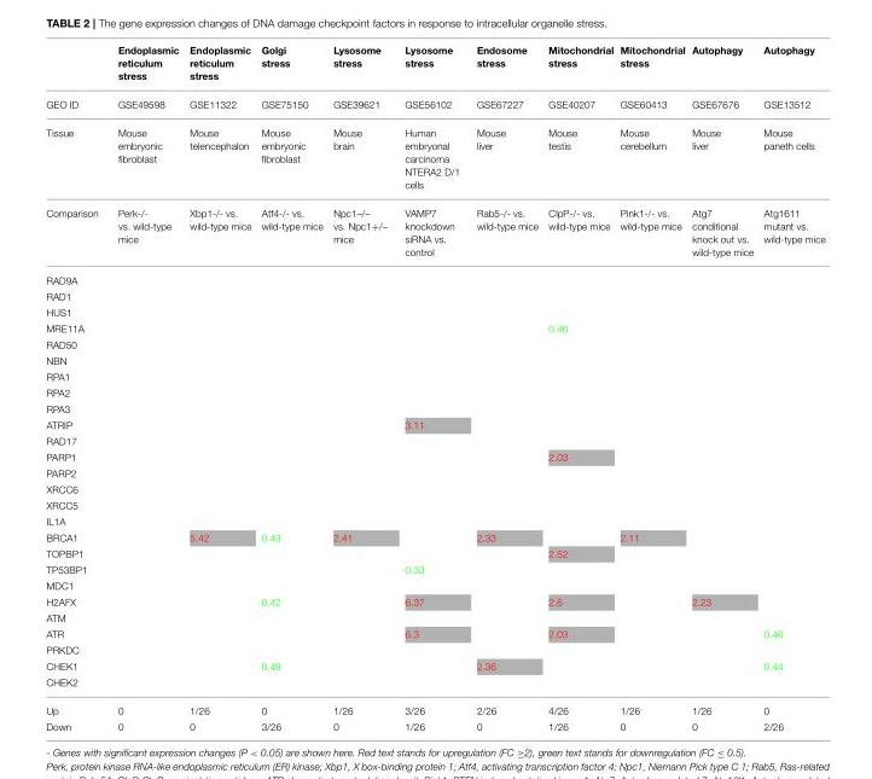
<table><thead><tr><td></td><td>Endoplasmic reticulum stress</td><td>Endoplasmic reticulum stress</td><td>Golgi stress</td><td>Lysosome stress</td><td>Lysosome stress</td><td>Endosome stress</td><td>Mitochondrial stress</td><td>Mitochondrial stress</td><td>Autophagy</td><td>Autophagy</td></tr></thead><tbody><tr><td>GEO ID</td><td>GSE49598</td><td>GSE11322</td><td>GSE75150</td><td>GSE39621</td><td>GSE56102</td><td>GSE67227</td><td>GSE40207</td><td>GSE60413</td><td>GSE67676</td><td>GSE13512</td></tr><tr><td>Tissue</td><td>Mouse embryonic fibroblast</td><td>Mouse telencephalon</td><td>Mouse embryonic fibroblast</td><td>Mouse brain</td><td>Human embryonal carcinoma NTERA2 D/1 cells</td><td>Mouse liver</td><td>Mouse testis</td><td>Mouse cerebellum</td><td>Mouse liver</td><td>Mouse paneth cells</td></tr><tr><td>Comparison</td><td>Perk-/- vs. wild-type mice</td><td>Xbp1-/- vs. wild-type mice</td><td>Atf4-/- vs. wild-type mice</td><td>Npc1–/– vs. Npc1+/– mice</td><td>VAMP7 knockdown siRNA vs. control</td><td>Rab5-/- vs. wild-type mice</td><td>ClpP-/- vs. wild-type mice</td><td>Pink1-/- vs. wild-type mice</td><td>Atg7 conditional knock out vs. wild-type mice</td><td>Atg1611 mutant vs. wild-type mice</td></tr><tr><td colspan="11">RAD9A</td></tr><tr><td colspan="11">RAD1</td></tr><tr><td colspan="11">HUS1</td></tr><tr><td>MRE11A</td><td></td><td></td><td></td><td></td><td></td><td></td><td>0.46</td><td></td><td></td><td></td></tr><tr><td colspan="11">RAD50</td></tr><tr><td colspan="11">NBN</td></tr><tr><td colspan="11">RPA1</td></tr><tr><td colspan="11">RPA2</td></tr><tr><td colspan="11">RPA3</td></tr><tr><td>ATRIP</td><td></td><td></td><td></td><td></td><td>3.11</td><td></td><td></td><td></td><td></td><td></td></tr><tr><td colspan="11">RAD17</td></tr><tr><td>PARP1</td><td></td><td></td><td></td><td></td><td></td><td></td><td>2.03</td><td></td><td></td><td></td></tr><tr><td colspan="11">PARP2</td></tr><tr><td colspan="11">XRCC6</td></tr><tr><td colspan="11">XRCC5</td></tr><tr><td colspan="11">IL1A</td></tr><tr><td>BRCA1</td><td></td><td>5.42</td><td>0.43</td><td>2.41</td><td></td><td>2.33</td><td></td><td>2.11</td><td></td><td></td></tr><tr><td>TOPBP1</td><td></td><td></td><td></td><td></td><td></td><td></td><td>2.52</td><td></td><td></td><td></td></tr><tr><td>TP53BP1</td><td></td><td></td><td></td><td></td><td>0.33</td><td></td><td></td><td></td><td></td><td></td></tr><tr><td colspan="11">MDC1</td></tr><tr><td>H2AFX</td><td></td><td></td><td>0.42</td><td></td><td>6.37</td><td></td><td>2.6</td><td></td><td>2.23</td><td></td></tr><tr><td colspan="11">ATM</td></tr><tr><td>ATR</td><td></td><td></td><td></td><td></td><td>6.3</td><td></td><td>2.03</td><td></td><td></td><td>0.46</td></tr><tr><td colspan="11">PRKDC</td></tr><tr><td>CHEK1</td><td></td><td></td><td>0.49</td><td></td><td></td><td>2.36</td><td></td><td></td><td></td><td>0.44</td></tr><tr><td colspan="11">CHEK2</td></tr><tr><td>Up</td><td>0</td><td>1/26</td><td>0</td><td>1/26</td><td>3/26</td><td>2/26</td><td>4/26</td><td>1/26</td><td>1/26</td><td>0</td></tr><tr><td>Down</td><td>0</td><td>0</td><td>3/26</td><td>0</td><td>1/26</td><td>0</td><td>1/26</td><td>0</td><td>0</td><td>2/26</td></tr></tbody></table>